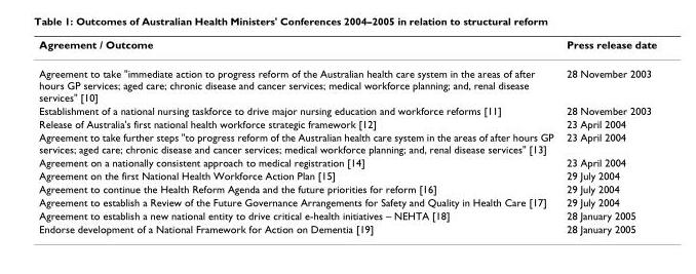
<table><thead><tr><td>Agreement / Outcome</td><td>Press release date</td></tr></thead><tbody><tr><td>Agreement to take &quot;immediate action to progress reform of the Australian health care system in the areas of after hours GP services; aged care; chronic disease and cancer services; medical workforce planning; and, renal disease services&quot; [10]</td><td>28 November 2003</td></tr><tr><td>Establishment of a national nursing taskforce to drive major nursing education and workforce reforms [11]</td><td>28 November 2003</td></tr><tr><td>Release of Australia&#x27;s first national health workforce strategic framework [12]</td><td>23 April 2004</td></tr><tr><td>Agreement to take further steps &quot;to progress reform of the Australian health care system in the areas of after hours GP services; aged care; chronic disease and cancer services; medical workforce planning; and, renal disease services&quot; [13]</td><td>23 April 2004</td></tr><tr><td>Agreement on a nationally consistent approach to medical registration [14]</td><td>23 April 2004</td></tr><tr><td>Agreement on the first National Health Workforce Action Plan [15]</td><td>29 July 2004</td></tr><tr><td>Agreement to continue the Health Reform Agenda and the future priorities for reform [16]</td><td>29 July 2004</td></tr><tr><td>Agreement to establish a Review of the Future Governance Arrangements for Safety and Quality in Health Care [17]</td><td>29 July 2004</td></tr><tr><td>Agreement to establish a new national entity to drive critical e-health initiatives – NEHTA [18]</td><td>28 January 2005</td></tr><tr><td>Endorse development of a National Framework for Action on Dementia [19]</td><td>28 January 2005</td></tr></tbody></table>